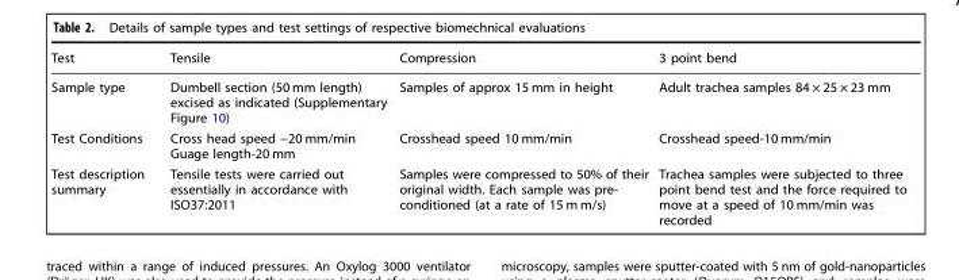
<table><thead><tr><td>Test</td><td>Tensile</td><td>Compression</td><td>3 point bend</td></tr></thead><tbody><tr><td>Sample type</td><td>Dumbell section (50 mm length) excised as indicated (Supplementary Figure 10)</td><td>Samples of approx 15 mm in height</td><td>Adult trachea samples 84 × 25 × 23 mm</td></tr><tr><td>Test Conditions</td><td>Cross head speed −20 mm/min Guage length-20 mm</td><td>Crosshead speed 10 mm/min</td><td>Crosshead speed-10 mm/min</td></tr><tr><td>Test description summary</td><td>Tensile tests were carried out essentially in accordance with ISO37:2011</td><td>Samples were compressed to 50% of their original width. Each sample was pre- conditioned (at a rate of 15 m m/s)</td><td>Trachea samples were subjected to three point bend test and the force required to move at a speed of 10 mm/min was recorded</td></tr></tbody></table>